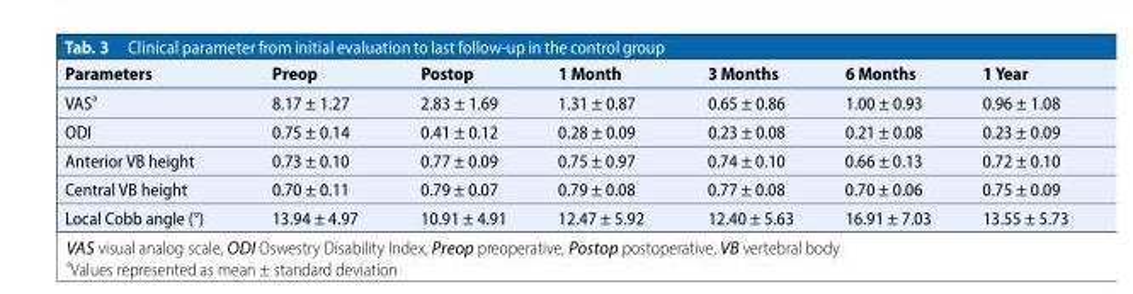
<table><thead><tr><td>Parameters</td><td>Preop</td><td>Postop</td><td>1 Month</td><td>3 Months</td><td>6 Months</td><td>1 Year</td></tr></thead><tbody><tr><td>VAS<sup>a</sup></td><td>8.17 ± 1.27</td><td>2.83 ± 1.69</td><td>1.31 ± 0.87</td><td>0.65 ± 0.86</td><td>1.00 ± 0.93</td><td>0.96 ± 1.08</td></tr><tr><td>ODI</td><td>0.75 ± 0.14</td><td>0.41 ± 0.12</td><td>0.28 ± 0.09</td><td>0.23 ± 0.08</td><td>0.21 ± 0.08</td><td>0.23 ± 0.09</td></tr><tr><td>Anterior VB height</td><td>0.73 ± 0.10</td><td>0.77 ± 0.09</td><td>0.75 ± 0.97</td><td>0.74 ± 0.10</td><td>0.66 ± 0.13</td><td>0.72 ± 0.10</td></tr><tr><td>Central VB height</td><td>0.70 ± 0.11</td><td>0.79 ± 0.07</td><td>0.79 ± 0.08</td><td>0.77 ± 0.08</td><td>0.70 ± 0.06</td><td>0.75 ± 0.09</td></tr><tr><td>Local Cobb angle (°)</td><td>13.94 ± 4.97</td><td>10.91 ± 4.91</td><td>12.47 ± 5.92</td><td>12.40 ± 5.63</td><td>16.91 ± 7.03</td><td>13.55 ± 5.73</td></tr></tbody></table>